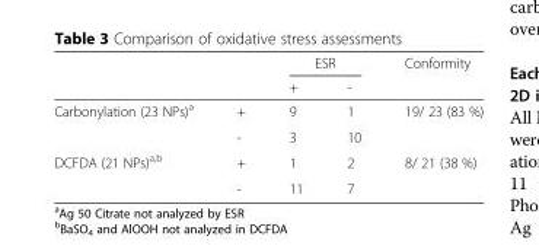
<table><thead><tr><td rowspan="2"></td><td rowspan="2"></td><td colspan="2">ESR</td><td rowspan="2">Conformity</td></tr><tr><td>+</td><td>-</td></tr></thead><tbody><tr><td rowspan="2">Carbonylation (23 NPs)<sup>a</sup></td><td>+</td><td>9</td><td>1</td><td rowspan="2">19/ 23 (83 %)</td></tr><tr><td>-</td><td>3</td><td>10</td></tr><tr><td rowspan="2">DCFDA (21 NPs)<sup>a,b</sup></td><td>+</td><td>1</td><td>2</td><td rowspan="2">8/ 21 (38 %)</td></tr><tr><td>-</td><td>11</td><td>7</td></tr></tbody></table>